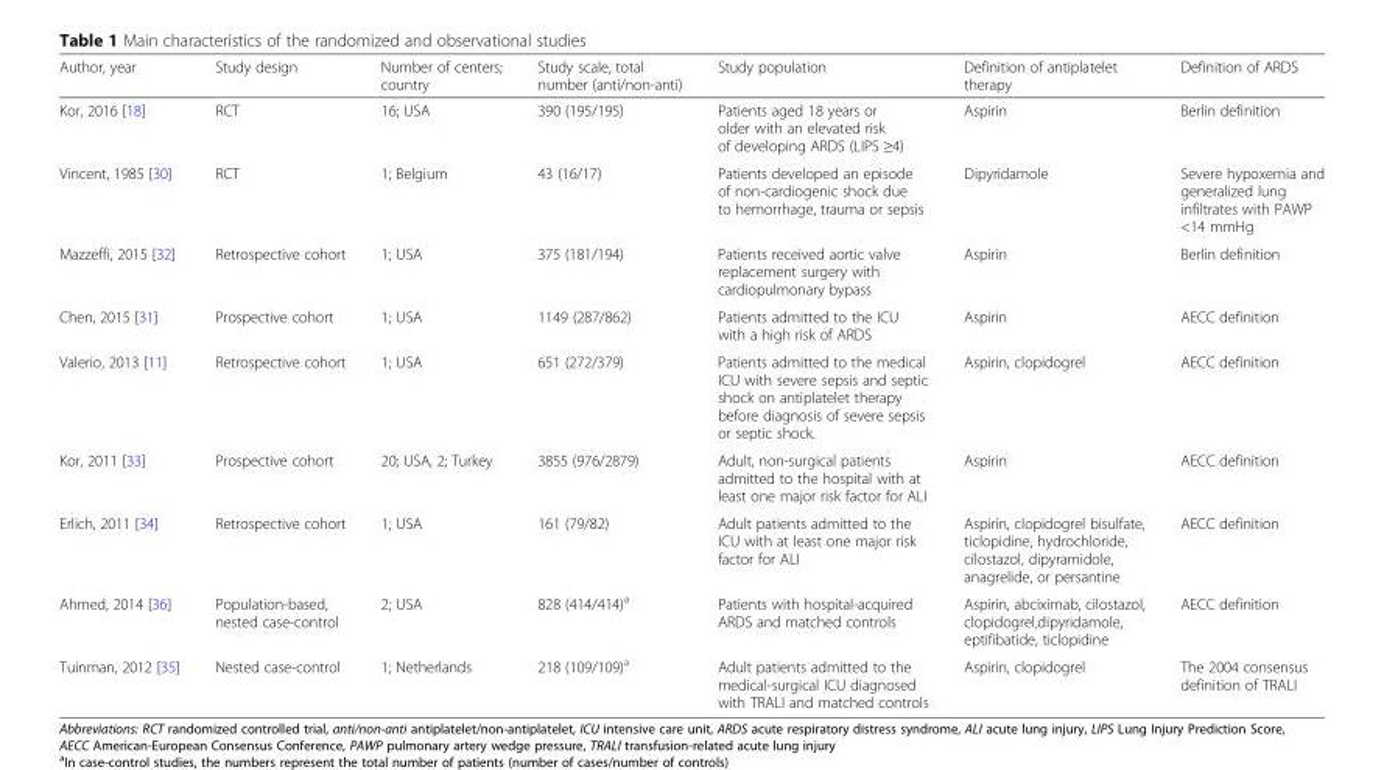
<table><thead><tr><td>Author, year</td><td>Study design</td><td>Number of centers; country</td><td>Study scale, total number (anti/non-anti)</td><td>Study population</td><td>Definition of antiplatelet therapy</td><td>Definition of ARDS</td></tr></thead><tbody><tr><td>Kor, 2016 [18]</td><td>RCT</td><td>16; USA</td><td>390 (195/195)</td><td>Patients aged 18 years or older with an elevated risk of developing ARDS (LIPS ≥4)</td><td>Aspirin</td><td>Berlin definition</td></tr><tr><td>Vincent, 1985 [30]</td><td>RCT</td><td>1; Belgium</td><td>43 (16/17)</td><td>Patients developed an episode of non-cardiogenic shock due to hemorrhage, trauma or sepsis</td><td>Dipyridamole</td><td>Severe hypoxemia and generalized lung infiltrates with PAWP &lt;14 mmHg</td></tr><tr><td>Mazzeffi, 2015 [32]</td><td>Retrospective cohort</td><td>1; USA</td><td>375 (181/194)</td><td>Patients received aortic valve replacement surgery with cardiopulmonary bypass</td><td>Aspirin</td><td>Berlin definition</td></tr><tr><td>Chen, 2015 [31]</td><td>Prospective cohort</td><td>1; USA</td><td>1149 (287/862)</td><td>Patients admitted to the ICU with a high risk of ARDS</td><td>Aspirin</td><td>AECC definition</td></tr><tr><td>Valerio, 2013 [11]</td><td>Retrospective cohort</td><td>1; USA</td><td>651 (272/379)</td><td>Patients admitted to the medical ICU with severe sepsis and septic shock on antiplatelet therapy before diagnosis of severe sepsis or septic shock.</td><td>Aspirin, clopidogrel</td><td>AECC definition</td></tr><tr><td>Kor, 2011 [33]</td><td>Prospective cohort</td><td>20; USA, 2; Turkey</td><td>3855 (976/2879)</td><td>Adult, non-surgical patients admitted to the hospital with at least one major risk factor for ALI</td><td>Aspirin</td><td>AECC definition</td></tr><tr><td>Erlich, 2011 [34]</td><td>Retrospective cohort</td><td>1; USA</td><td>161 (79/82)</td><td>Adult patients admitted to the ICU with at least one major risk factor for ALI</td><td>Aspirin, clopidogrel bisulfate, ticlopidine, hydrochloride, cilostazol, dipyramidole, anagrelide, or persantine</td><td>AECC definition</td></tr><tr><td>Ahmed, 2014 [36]</td><td>Population-based, nested case-control</td><td>2; USA</td><td>828 (414/414)<sup>a</sup></td><td>Patients with hospital-acquired ARDS and matched controls</td><td>Aspirin, abciximab, cilostazol, clopidogrel,dipyridamole, eptifibatide, ticlopidine</td><td>AECC definition</td></tr><tr><td>Tuinman, 2012 [35]</td><td>Nested case-control</td><td>1; Netherlands</td><td>218 (109/109)<sup>a</sup></td><td>Adult patients admitted to the medical-surgical ICU diagnosed with TRALI and matched controls</td><td>Aspirin, clopidogrel</td><td>The 2004 consensus definition of TRALI</td></tr></tbody></table>